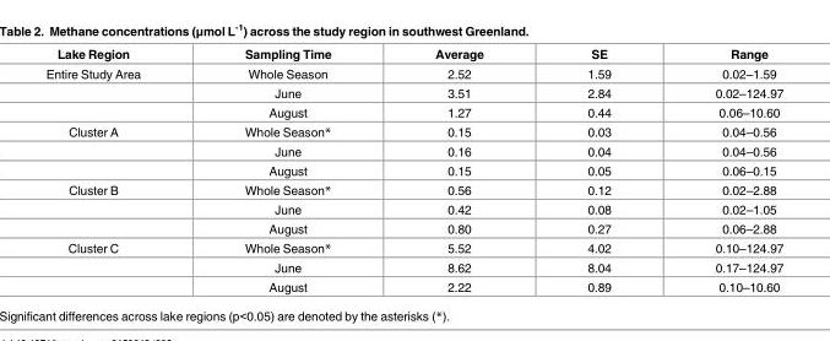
<table><thead><tr><td>Lake Region</td><td>Sampling Time</td><td>Average</td><td>SE</td><td>Range</td></tr></thead><tbody><tr><td rowspan="3">Entire Study Area</td><td>Whole Season</td><td>2.52</td><td>1.59</td><td>0.02–1.59</td></tr><tr><td>June</td><td>3.51</td><td>2.84</td><td>0.02–124.97</td></tr><tr><td>August</td><td>1.27</td><td>0.44</td><td>0.06–10.60</td></tr><tr><td rowspan="3">Cluster A</td><td>Whole Season*</td><td>0.15</td><td>0.03</td><td>0.04–0.56</td></tr><tr><td>June</td><td>0.16</td><td>0.04</td><td>0.04–0.56</td></tr><tr><td>August</td><td>0.15</td><td>0.05</td><td>0.06–0.15</td></tr><tr><td rowspan="3">Cluster B</td><td>Whole Season*</td><td>0.56</td><td>0.12</td><td>0.02–2.88</td></tr><tr><td>June</td><td>0.42</td><td>0.08</td><td>0.02–1.05</td></tr><tr><td>August</td><td>0.80</td><td>0.27</td><td>0.06–2.88</td></tr><tr><td rowspan="3">Cluster C</td><td>Whole Season*</td><td>5.52</td><td>4.02</td><td>0.10–124.97</td></tr><tr><td>June</td><td>8.62</td><td>8.04</td><td>0.17–124.97</td></tr><tr><td>August</td><td>2.22</td><td>0.89</td><td>0.10–10.60</td></tr></tbody></table>